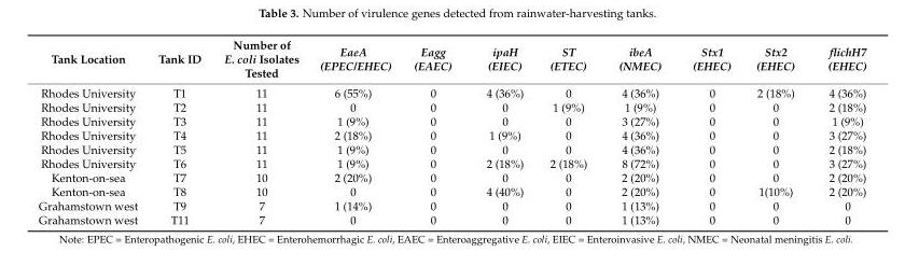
<table><thead><tr><td>Tank Location</td><td>Tank ID</td><td>Number of E. coli Isolates Tested</td><td>EaeA (EPEC/EHEC)</td><td>Eagg (EAEC)</td><td>ipaH (EIEC)</td><td>ST (ETEC)</td><td>ibeA (NMEC)</td><td>Stx1 (EHEC)</td><td>Stx2 (EHEC)</td><td>flichH7 (EHEC)</td></tr></thead><tbody><tr><td>Rhodes University</td><td>T1</td><td>11</td><td>6 (55%)</td><td>0</td><td>4 (36%)</td><td>0</td><td>4 (36%)</td><td>0</td><td>2 (18%)</td><td>4 (36%)</td></tr><tr><td>Rhodes University</td><td>T2</td><td>11</td><td>0</td><td>0</td><td>0</td><td>1 (9%)</td><td>1 (9%)</td><td>0</td><td>0</td><td>2 (18%)</td></tr><tr><td>Rhodes University</td><td>T3</td><td>11</td><td>1 (9%)</td><td>0</td><td>0</td><td>0</td><td>3 (27%)</td><td>0</td><td>0</td><td>1 (9%)</td></tr><tr><td>Rhodes University</td><td>T4</td><td>11</td><td>2 (18%)</td><td>0</td><td>1 (9%)</td><td>0</td><td>4 (36%)</td><td>0</td><td>0</td><td>3 (27%)</td></tr><tr><td>Rhodes University</td><td>T5</td><td>11</td><td>1 (9%)</td><td>0</td><td>0</td><td>0</td><td>4 (36%)</td><td>0</td><td>0</td><td>2 (18%)</td></tr><tr><td>Rhodes University</td><td>T6</td><td>11</td><td>1 (9%)</td><td>0</td><td>2 (18%)</td><td>2 (18%)</td><td>8 (72%)</td><td>0</td><td>0</td><td>3 (27%)</td></tr><tr><td>Kenton-on-sea</td><td>T7</td><td>10</td><td>2 (20%)</td><td>0</td><td>0</td><td>0</td><td>2 (20%)</td><td>0</td><td>0</td><td>2 (20%)</td></tr><tr><td>Kenton-on-sea</td><td>T8</td><td>10</td><td>0</td><td>0</td><td>4 (40%)</td><td>0</td><td>2 (20%)</td><td>0</td><td>1(10%)</td><td>2 (20%)</td></tr><tr><td>Grahamstown west</td><td>T9</td><td>7</td><td>1 (14%)</td><td>0</td><td>0</td><td>0</td><td>1 (13%)</td><td>0</td><td>0</td><td>0</td></tr><tr><td>Grahamstown west</td><td>T11</td><td>7</td><td>0</td><td>0</td><td>0</td><td>0</td><td>1 (13%)</td><td>0</td><td>0</td><td>0</td></tr></tbody></table>